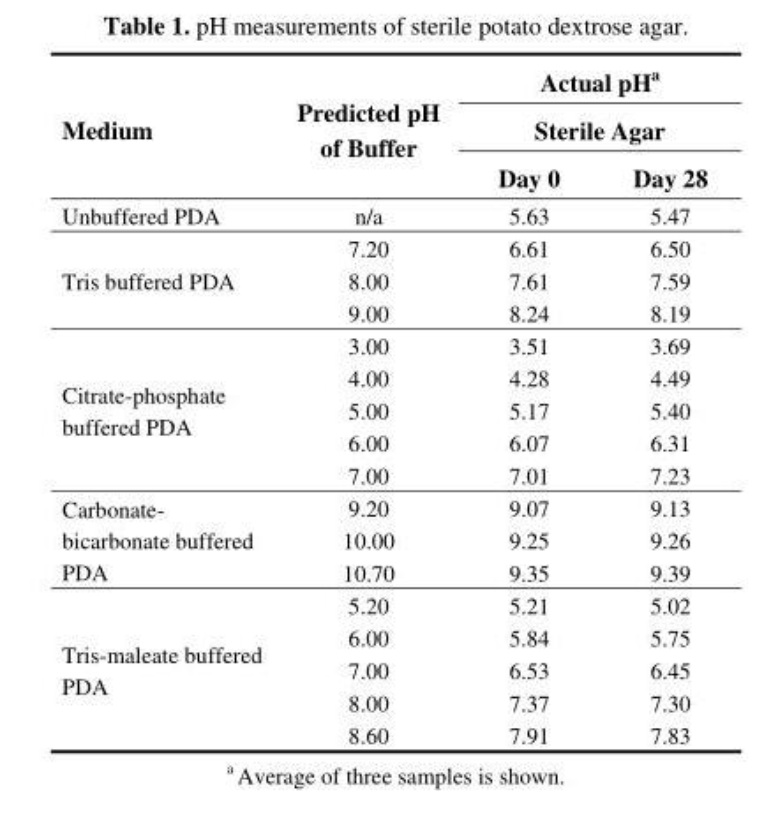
<table><thead><tr><td rowspan="3">Medium</td><td rowspan="3">Predicted pH of Buffer</td><td rowspan="2" colspan="2">Actual pH<sup>a</sup> Sterile Agar</td></tr><tr></tr><tr><td>Day 0</td><td>Day 28</td></tr></thead><tbody><tr><td>Unbuffered PDA</td><td>n/a</td><td>5.63</td><td>5.47</td></tr><tr><td rowspan="3">Tris buffered PDA</td><td>7.20</td><td>6.61</td><td>6.50</td></tr><tr><td>8.00</td><td>7.61</td><td>7.59</td></tr><tr><td>9.00</td><td>8.24</td><td>8.19</td></tr><tr><td rowspan="5">Citrate-phosphate buffered PDA</td><td>3.00</td><td>3.51</td><td>3.69</td></tr><tr><td>4.00</td><td>4.28</td><td>4.49</td></tr><tr><td>5.00</td><td>5.17</td><td>5.40</td></tr><tr><td>6.00</td><td>6.07</td><td>6.31</td></tr><tr><td>7.00</td><td>7.01</td><td>7.23</td></tr><tr><td rowspan="3">Carbonate- bicarbonate buffered PDA</td><td>9.20</td><td>9.07</td><td>9.13</td></tr><tr><td>10.00</td><td>9.25</td><td>9.26</td></tr><tr><td>10.70</td><td>9.35</td><td>9.39</td></tr><tr><td rowspan="5">Tris-maleate buffered PDA</td><td>5.20</td><td>5.21</td><td>5.02</td></tr><tr><td>6.00</td><td>5.84</td><td>5.75</td></tr><tr><td>7.00</td><td>6.53</td><td>6.45</td></tr><tr><td>8.00</td><td>7.37</td><td>7.30</td></tr><tr><td>8.60</td><td>7.91</td><td>7.83</td></tr></tbody></table>